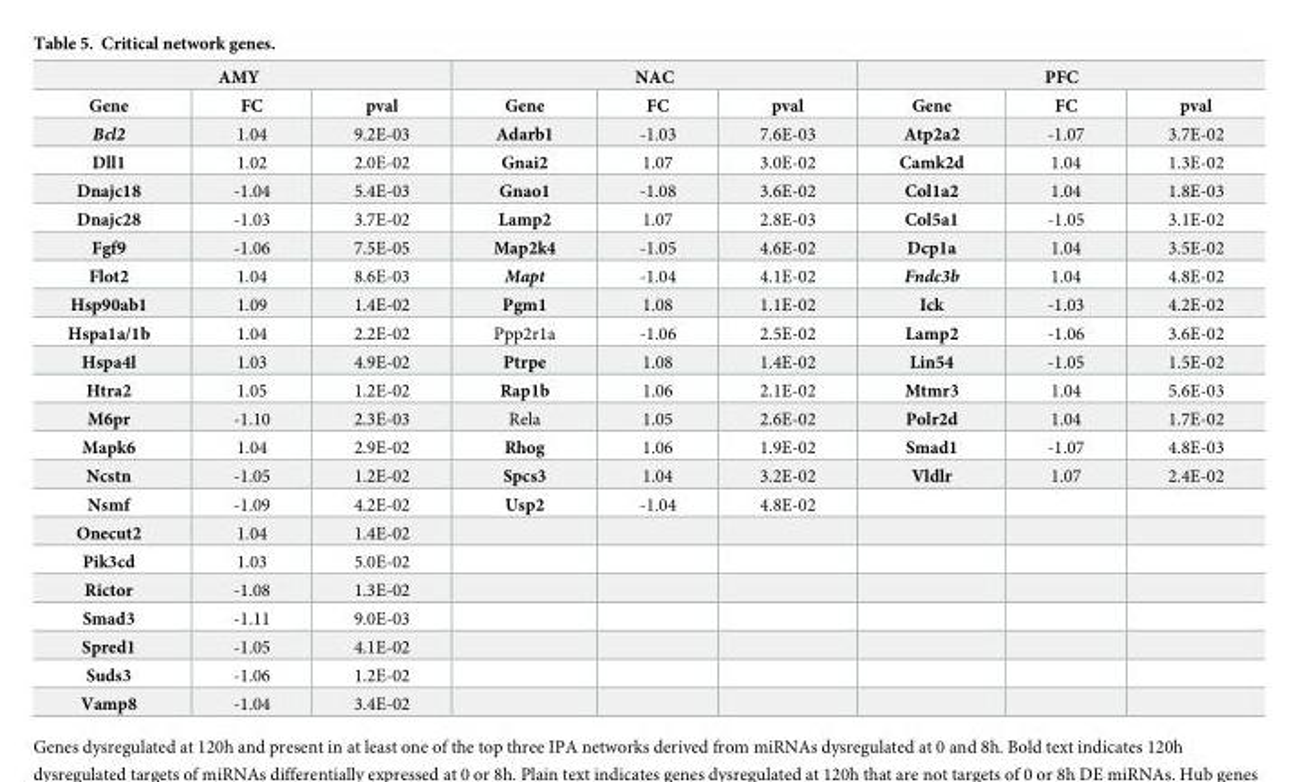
<table><thead><tr><td colspan="3">AMY</td><td colspan="3">NAC</td><td colspan="3">PFC</td></tr><tr><td>Gene</td><td>FC</td><td>pval</td><td>Gene</td><td>FC</td><td>pval</td><td>Gene</td><td>FC</td><td>pval</td></tr></thead><tbody><tr><td>Bcl2</td><td>1.04</td><td>9.2E-03</td><td>Adarb1</td><td>-1.03</td><td>7.6E-03</td><td>Atp2a2</td><td>-1.07</td><td>3.7E-02</td></tr><tr><td>Dll1</td><td>1.02</td><td>2.0E-02</td><td>Gnai2</td><td>1.07</td><td>3.0E-02</td><td>Camk2d</td><td>1.04</td><td>1.3E-02</td></tr><tr><td>Dnajc18</td><td>-1.04</td><td>5.4E-03</td><td>Gnao1</td><td>-1.08</td><td>3.6E-02</td><td>Col1a2</td><td>1.04</td><td>1.8E-03</td></tr><tr><td>Dnajc28</td><td>-1.03</td><td>3.7E-02</td><td>Lamp2</td><td>1.07</td><td>2.8E-03</td><td>Col5a1</td><td>-1.05</td><td>3.1E-02</td></tr><tr><td>Fgf9</td><td>-1.06</td><td>7.5E-05</td><td>Map2k4</td><td>-1.05</td><td>4.6E-02</td><td>Dcp1a</td><td>1.04</td><td>3.5E-02</td></tr><tr><td>Flot2</td><td>1.04</td><td>8.6E-03</td><td>Mapt</td><td>-1.04</td><td>4.1E-02</td><td>Fndc3b</td><td>1.04</td><td>4.8E-02</td></tr><tr><td>Hsp90ab1</td><td>1.09</td><td>1.4E-02</td><td>Pgm1</td><td>1.08</td><td>1.1E-02</td><td>Ick</td><td>-1.03</td><td>4.2E-02</td></tr><tr><td>Hspa1a/1b</td><td>1.04</td><td>2.2E-02</td><td>Ppp2r1a</td><td>-1.06</td><td>2.5E-02</td><td>Lamp2</td><td>-1.06</td><td>3.6E-02</td></tr><tr><td>Hspa4l</td><td>1.03</td><td>4.9E-02</td><td>Ptrpe</td><td>1.08</td><td>1.4E-02</td><td>Lin54</td><td>-1.05</td><td>1.5E-02</td></tr><tr><td>Htra2</td><td>1.05</td><td>1.2E-02</td><td>Rap1b</td><td>1.06</td><td>2.1E-02</td><td>Mtmr3</td><td>1.04</td><td>5.6E-03</td></tr><tr><td>M6pr</td><td>-1.10</td><td>2.3E-03</td><td>Rela</td><td>1.05</td><td>2.6E-02</td><td>Polr2d</td><td>1.04</td><td>1.7E-02</td></tr><tr><td>Mapk6</td><td>1.04</td><td>2.9E-02</td><td>Rhog</td><td>1.06</td><td>1.9E-02</td><td>Smad1</td><td>-1.07</td><td>4.8E-03</td></tr><tr><td>Ncstn</td><td>-1.05</td><td>1.2E-02</td><td>Spcs3</td><td>1.04</td><td>3.2E-02</td><td>Vldlr</td><td>1.07</td><td>2.4E-02</td></tr><tr><td>Nsmf</td><td>-1.09</td><td>4.2E-02</td><td>Usp2</td><td>-1.04</td><td>4.8E-02</td><td></td><td></td><td></td></tr><tr><td>Onecut2</td><td>1.04</td><td>1.4E-02</td><td></td><td></td><td></td><td></td><td></td><td></td></tr><tr><td>Pik3cd</td><td>1.03</td><td>5.0E-02</td><td></td><td></td><td></td><td></td><td></td><td></td></tr><tr><td>Rictor</td><td>-1.08</td><td>1.3E-02</td><td></td><td></td><td></td><td></td><td></td><td></td></tr><tr><td>Smad3</td><td>-1.11</td><td>9.0E-03</td><td></td><td></td><td></td><td></td><td></td><td></td></tr><tr><td>Spred1</td><td>-1.05</td><td>4.1E-02</td><td></td><td></td><td></td><td></td><td></td><td></td></tr><tr><td>Suds3</td><td>-1.06</td><td>1.2E-02</td><td></td><td></td><td></td><td></td><td></td><td></td></tr><tr><td>Vamp8</td><td>-1.04</td><td>3.4E-02</td><td></td><td></td><td></td><td></td><td></td><td></td></tr></tbody></table>